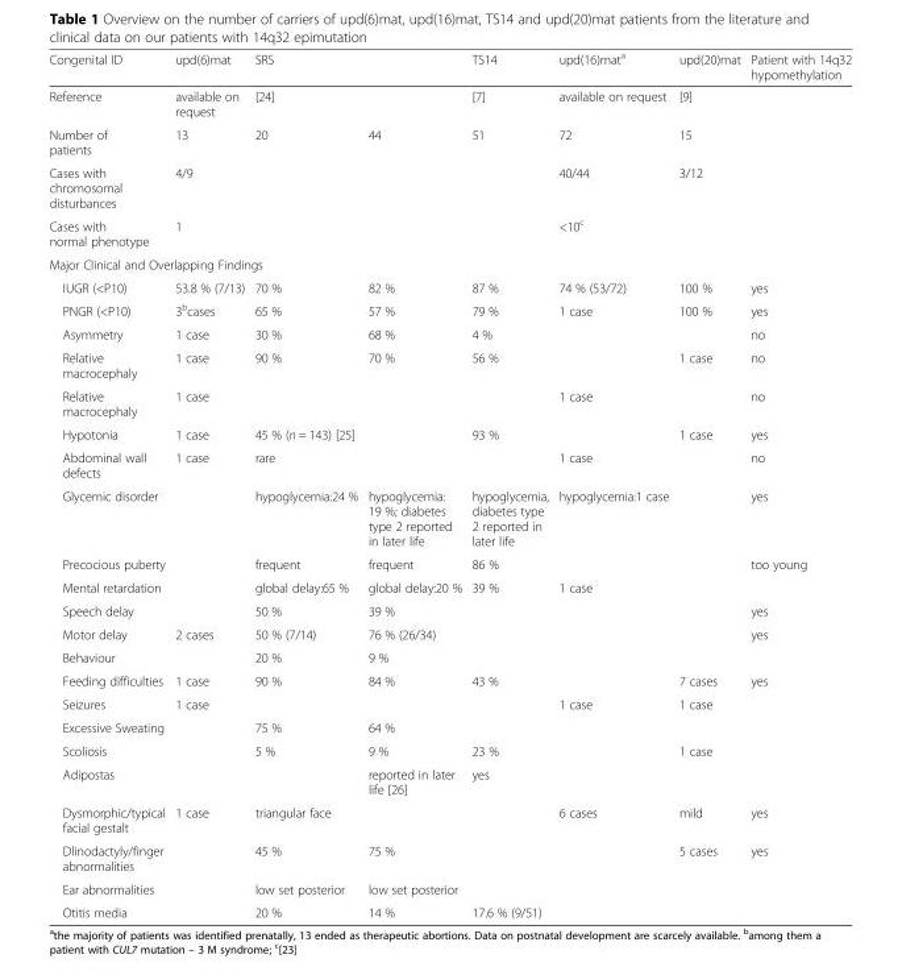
<table><thead><tr><td rowspan="3">Congenital ID Reference Number of patients</td><td rowspan="3">upd(6)mat available on request 13</td><td rowspan="2" colspan="2">SRS [24]</td><td rowspan="3">TS14 [7] 51</td><td rowspan="3">upd(16)mat<sup>a</sup> available on request 72</td><td rowspan="3">upd(20)mat [9] 15</td><td rowspan="3">Patient with 14q32 hypomethylation</td></tr><tr></tr><tr><td>20</td><td>44</td></tr></thead><tbody><tr><td>Cases with chromosomal disturbances</td><td>4/9</td><td></td><td></td><td></td><td>40/44</td><td>3/12</td><td></td></tr><tr><td>Cases with normal phenotype</td><td>1</td><td></td><td></td><td></td><td>&lt;10<sup>c</sup></td><td></td><td></td></tr><tr><td colspan="8">Major Clinical and Overlapping Findings</td></tr><tr><td>IUGR (&lt;P10)</td><td>53.8 % (7/13)</td><td>70 %</td><td>82 %</td><td>87 %</td><td>74 % (53/72)</td><td>100 %</td><td>yes</td></tr><tr><td>PNGR (&lt;P10)</td><td>3<sup>b</sup>cases</td><td>65 %</td><td>57 %</td><td>79 %</td><td>1 case</td><td>100 %</td><td>yes</td></tr><tr><td>Asymmetry</td><td>1 case</td><td>30 %</td><td>68 %</td><td>4 %</td><td></td><td></td><td>no</td></tr><tr><td>Relative macrocephaly</td><td>1 case</td><td>90 %</td><td>70 %</td><td>56 %</td><td></td><td>1 case</td><td>no</td></tr><tr><td>Relative macrocephaly</td><td>1 case</td><td></td><td></td><td></td><td>1 case</td><td></td><td>no</td></tr><tr><td>Hypotonia</td><td>1 case</td><td colspan="2">45 % (n = 143) [25]</td><td>93 %</td><td></td><td>1 case</td><td>yes</td></tr><tr><td>Abdominal wall defects</td><td>1 case</td><td>rare</td><td></td><td></td><td>1 case</td><td></td><td>no</td></tr><tr><td>Glycemic disorder</td><td></td><td>hypoglycemia:24 %</td><td>hypoglycemia: 19 %; diabetes type 2 reported in later life</td><td>hypoglycemia, diabetes type 2 reported in later life</td><td>hypoglycemia:1 case</td><td></td><td>yes</td></tr><tr><td>Precocious puberty</td><td></td><td>frequent</td><td>frequent</td><td>86 %</td><td></td><td></td><td>too young</td></tr><tr><td>Mental retardation</td><td></td><td>global delay:65 %</td><td>global delay:20 %</td><td>39 %</td><td>1 case</td><td></td><td></td></tr><tr><td>Speech delay</td><td></td><td>50 %</td><td>39 %</td><td></td><td></td><td></td><td>yes</td></tr><tr><td>Motor delay</td><td>2 cases</td><td>50 % (7/14)</td><td>76 % (26/34)</td><td></td><td></td><td></td><td>yes</td></tr><tr><td>Behaviour</td><td></td><td>20 %</td><td>9 %</td><td></td><td></td><td></td><td></td></tr><tr><td>Feeding difficulties</td><td>1 case</td><td>90 %</td><td>84 %</td><td>43 %</td><td></td><td>7 cases</td><td>yes</td></tr><tr><td>Seizures</td><td>1 case</td><td></td><td></td><td></td><td>1 case</td><td>1 case</td><td></td></tr><tr><td>Excessive Sweating</td><td></td><td>75 %</td><td>64 %</td><td></td><td></td><td></td><td></td></tr><tr><td>Scoliosis</td><td></td><td>5 %</td><td>9 %</td><td>23 %</td><td></td><td>1 case</td><td></td></tr><tr><td>Adipostas</td><td></td><td></td><td>reported in later life [26]</td><td>yes</td><td></td><td></td><td></td></tr><tr><td>Dysmorphic/typical facial gestalt</td><td>1 case</td><td colspan="2">triangular face</td><td></td><td>6 cases</td><td>mild</td><td>yes</td></tr><tr><td>Dlinodactyly/finger abnormalities</td><td></td><td>45 %</td><td>75 %</td><td></td><td></td><td>5 cases</td><td>yes</td></tr><tr><td>Ear abnormalities</td><td></td><td>low set posterior</td><td>low set posterior</td><td></td><td></td><td></td><td></td></tr><tr><td>Otitis media</td><td></td><td>20 %</td><td>14 %</td><td>17.6 % (9/51)</td><td></td><td></td><td></td></tr></tbody></table>